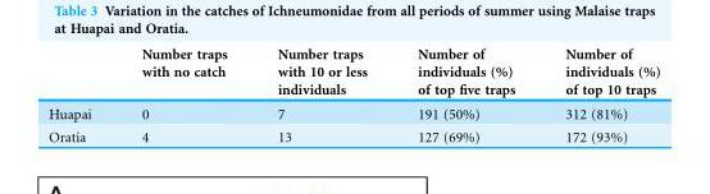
<table><thead><tr><td></td><td>Number traps with no catch</td><td>Number traps with 10 or less individuals</td><td>Number of individuals (%) of top five traps</td><td>Number of individuals (%) of top 10 traps</td></tr></thead><tbody><tr><td>Huapai</td><td>0</td><td>7</td><td>191 (50%)</td><td>312 (81%)</td></tr><tr><td>Oratia</td><td>4</td><td>13</td><td>127 (69%)</td><td>172 (93%)</td></tr></tbody></table>